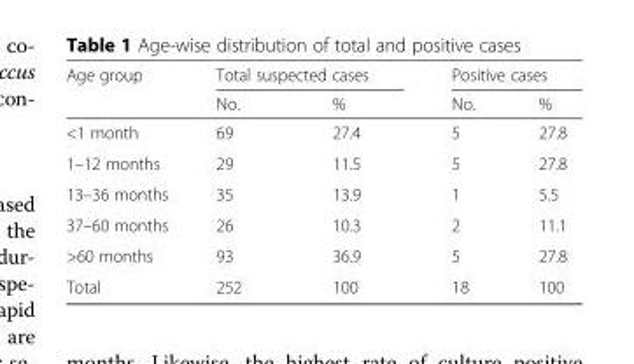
<table><thead><tr><td rowspan="2">Age group</td><td colspan="2">Total suspected cases</td><td colspan="2">Positive cases</td></tr><tr><td>No.</td><td>%</td><td>No.</td><td>%</td></tr></thead><tbody><tr><td>&lt;1 month</td><td>69</td><td>27.4</td><td>5</td><td>27.8</td></tr><tr><td>1–12 months</td><td>29</td><td>11.5</td><td>5</td><td>27.8</td></tr><tr><td>13–36 months</td><td>35</td><td>13.9</td><td>1</td><td>5.5</td></tr><tr><td>37–60 months</td><td>26</td><td>10.3</td><td>2</td><td>11.1</td></tr><tr><td>&gt;60 months</td><td>93</td><td>36.9</td><td>5</td><td>27.8</td></tr><tr><td>Total</td><td>252</td><td>100</td><td>18</td><td>100</td></tr></tbody></table>